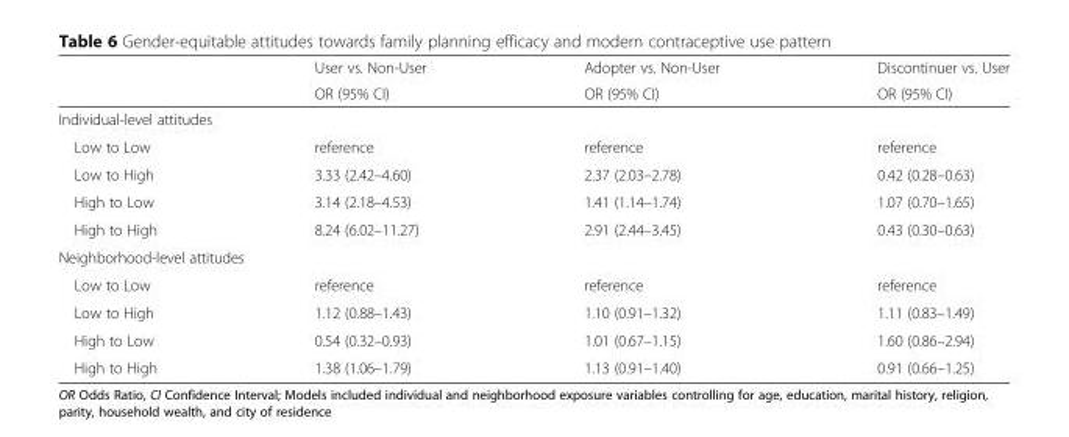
<table><thead><tr><td rowspan="2"></td><td rowspan="2">User vs. Non-User OR (95% CI)</td><td rowspan="2">Adopter vs. Non-User OR (95% CI)</td><td rowspan="2">Discontinuer vs. User OR (95% CI)</td></tr><tr></tr></thead><tbody><tr><td colspan="4">Individual-level attitudes</td></tr><tr><td>Low to Low</td><td>reference</td><td>reference</td><td>reference</td></tr><tr><td>Low to High</td><td>3.33 (2.42–4.60)</td><td>2.37 (2.03–2.78)</td><td>0.42 (0.28–0.63)</td></tr><tr><td>High to Low</td><td>3.14 (2.18–4.53)</td><td>1.41 (1.14–1.74)</td><td>1.07 (0.70–1.65)</td></tr><tr><td>High to High</td><td>8.24 (6.02–11.27)</td><td>2.91 (2.44–3.45)</td><td>0.43 (0.30–0.63)</td></tr><tr><td colspan="4">Neighborhood-level attitudes</td></tr><tr><td>Low to Low</td><td>reference</td><td>reference</td><td>reference</td></tr><tr><td>Low to High</td><td>1.12 (0.88–1.43)</td><td>1.10 (0.91–1.32)</td><td>1.11 (0.83–1.49)</td></tr><tr><td>High to Low</td><td>0.54 (0.32–0.93)</td><td>1.01 (0.67–1.15)</td><td>1.60 (0.86–2.94)</td></tr><tr><td>High to High</td><td>1.38 (1.06–1.79)</td><td>1.13 (0.91–1.40)</td><td>0.91 (0.66–1.25)</td></tr></tbody></table>